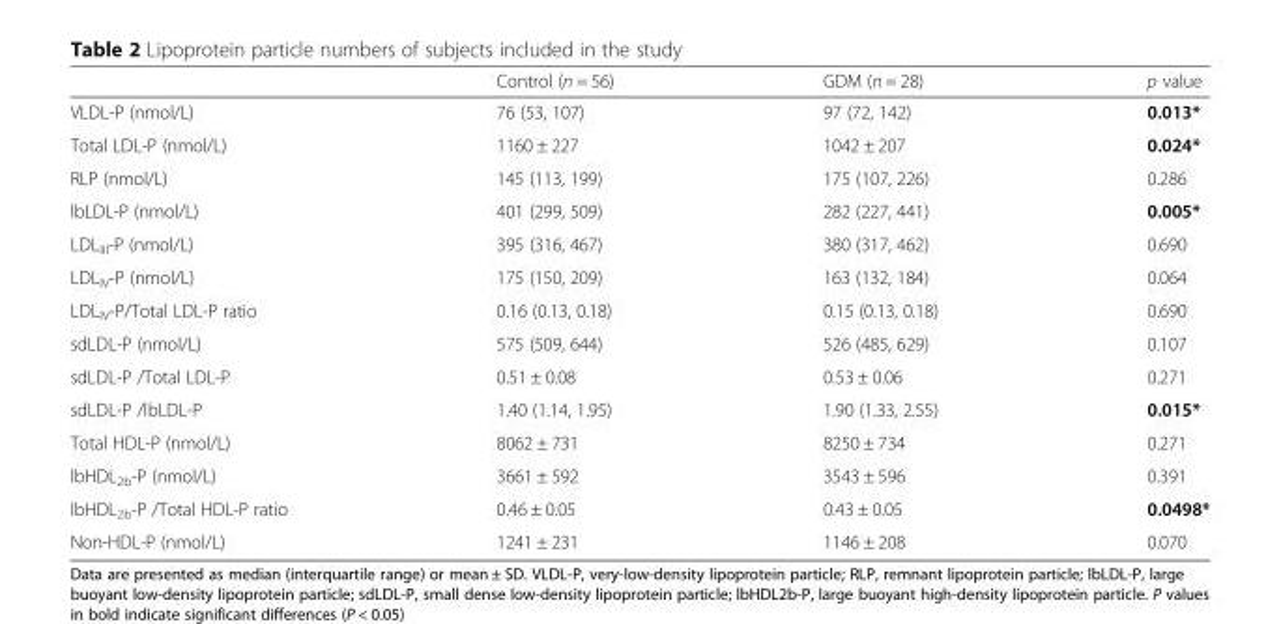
<table><thead><tr><td></td><td>Control (n = 56)</td><td>GDM (n = 28)</td><td>p value</td></tr></thead><tbody><tr><td>VLDL-P (nmol/L)</td><td>76 (53, 107)</td><td>97 (72, 142)</td><td>0.013*</td></tr><tr><td>Total LDL-P (nmol/L)</td><td>1160 ± 227</td><td>1042 ± 207</td><td>0.024*</td></tr><tr><td>RLP (nmol/L)</td><td>145 (113, 199)</td><td>175 (107, 226)</td><td>0.286</td></tr><tr><td>lbLDL-P (nmol/L)</td><td>401 (299, 509)</td><td>282 (227, 441)</td><td>0.005*</td></tr><tr><td>LDL<sub>III</sub>-P (nmol/L)</td><td>395 (316, 467)</td><td>380 (317, 462)</td><td>0.690</td></tr><tr><td>LDL<sub>IV</sub>-P (nmol/L)</td><td>175 (150, 209)</td><td>163 (132, 184)</td><td>0.064</td></tr><tr><td>LDL<sub>IV</sub>-P/Total LDL-P ratio</td><td>0.16 (0.13, 0.18)</td><td>0.15 (0.13, 0.18)</td><td>0.690</td></tr><tr><td>sdLDL-P (nmol/L)</td><td>575 (509, 644)</td><td>526 (485, 629)</td><td>0.107</td></tr><tr><td>sdLDL-P /Total LDL-P</td><td>0.51 ± 0.08</td><td>0.53 ± 0.06</td><td>0.271</td></tr><tr><td>sdLDL-P /lbLDL-P</td><td>1.40 (1.14, 1.95)</td><td>1.90 (1.33, 2.55)</td><td>0.015*</td></tr><tr><td>Total HDL-P (nmol/L)</td><td>8062 ± 731</td><td>8250 ± 734</td><td>0.271</td></tr><tr><td>lbHDL<sub>2b</sub>-P (nmol/L)</td><td>3661 ± 592</td><td>3543 ± 596</td><td>0.391</td></tr><tr><td>lbHDL<sub>2b</sub>-P /Total HDL-P ratio</td><td>0.46 ± 0.05</td><td>0.43 ± 0.05</td><td>0.0498*</td></tr><tr><td>Non-HDL-P (nmol/L)</td><td>1241 ± 231</td><td>1146 ± 208</td><td>0.070</td></tr></tbody></table>